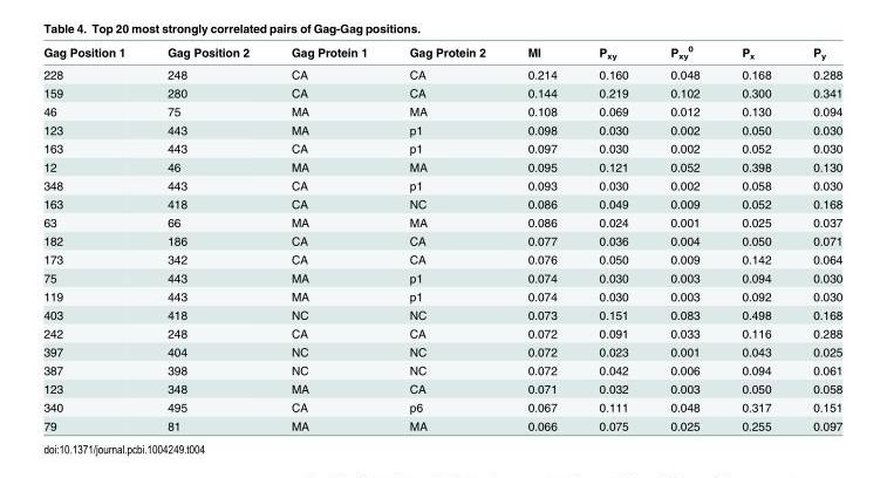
<table><thead><tr><td>Gag Position 1</td><td>Gag Position 2</td><td>Gag Protein 1</td><td>Gag Protein 2</td><td>MI</td><td>P<sub>xy</sub></td><td>P<sub>xy</sub> <sup>0</sup></td><td>P<sub>x</sub></td><td>P<sub>y</sub></td></tr></thead><tbody><tr><td>228</td><td>248</td><td>CA</td><td>CA</td><td>0.214</td><td>0.160</td><td>0.048</td><td>0.168</td><td>0.288</td></tr><tr><td>159</td><td>280</td><td>CA</td><td>CA</td><td>0.144</td><td>0.219</td><td>0.102</td><td>0.300</td><td>0.341</td></tr><tr><td>46</td><td>75</td><td>MA</td><td>MA</td><td>0.108</td><td>0.069</td><td>0.012</td><td>0.130</td><td>0.094</td></tr><tr><td>123</td><td>443</td><td>MA</td><td>p1</td><td>0.098</td><td>0.030</td><td>0.002</td><td>0.050</td><td>0.030</td></tr><tr><td>163</td><td>443</td><td>CA</td><td>p1</td><td>0.097</td><td>0.030</td><td>0.002</td><td>0.052</td><td>0.030</td></tr><tr><td>12</td><td>46</td><td>MA</td><td>MA</td><td>0.095</td><td>0.121</td><td>0.052</td><td>0.398</td><td>0.130</td></tr><tr><td>348</td><td>443</td><td>CA</td><td>p1</td><td>0.093</td><td>0.030</td><td>0.002</td><td>0.058</td><td>0.030</td></tr><tr><td>163</td><td>418</td><td>CA</td><td>NC</td><td>0.086</td><td>0.049</td><td>0.009</td><td>0.052</td><td>0.168</td></tr><tr><td>63</td><td>66</td><td>MA</td><td>MA</td><td>0.086</td><td>0.024</td><td>0.001</td><td>0.025</td><td>0.037</td></tr><tr><td>182</td><td>186</td><td>CA</td><td>CA</td><td>0.077</td><td>0.036</td><td>0.004</td><td>0.050</td><td>0.071</td></tr><tr><td>173</td><td>342</td><td>CA</td><td>CA</td><td>0.076</td><td>0.050</td><td>0.009</td><td>0.142</td><td>0.064</td></tr><tr><td>75</td><td>443</td><td>MA</td><td>p1</td><td>0.074</td><td>0.030</td><td>0.003</td><td>0.094</td><td>0.030</td></tr><tr><td>119</td><td>443</td><td>MA</td><td>p1</td><td>0.074</td><td>0.030</td><td>0.003</td><td>0.092</td><td>0.030</td></tr><tr><td>403</td><td>418</td><td>NC</td><td>NC</td><td>0.073</td><td>0.151</td><td>0.083</td><td>0.498</td><td>0.168</td></tr><tr><td>242</td><td>248</td><td>CA</td><td>CA</td><td>0.072</td><td>0.091</td><td>0.033</td><td>0.116</td><td>0.288</td></tr><tr><td>397</td><td>404</td><td>NC</td><td>NC</td><td>0.072</td><td>0.023</td><td>0.001</td><td>0.043</td><td>0.025</td></tr><tr><td>387</td><td>398</td><td>NC</td><td>NC</td><td>0.072</td><td>0.042</td><td>0.006</td><td>0.094</td><td>0.061</td></tr><tr><td>123</td><td>348</td><td>MA</td><td>CA</td><td>0.071</td><td>0.032</td><td>0.003</td><td>0.050</td><td>0.058</td></tr><tr><td>340</td><td>495</td><td>CA</td><td>p6</td><td>0.067</td><td>0.111</td><td>0.048</td><td>0.317</td><td>0.151</td></tr><tr><td>79</td><td>81</td><td>MA</td><td>MA</td><td>0.066</td><td>0.075</td><td>0.025</td><td>0.255</td><td>0.097</td></tr></tbody></table>